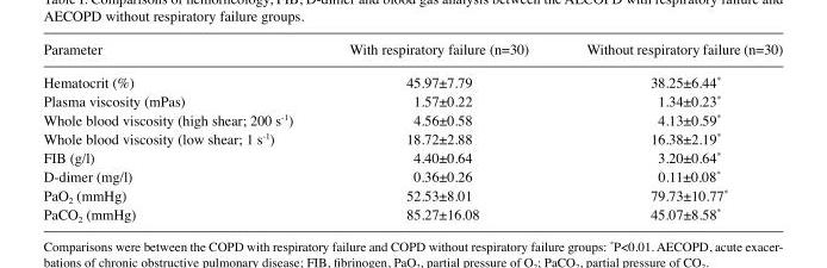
<table><thead><tr><td>Parameter</td><td>With respiratory failure (n=30)</td><td>Without respiratory failure (n=30)</td></tr></thead><tbody><tr><td>Hematocrit (%)</td><td>45.97±7.79</td><td>38.25±6.44*</td></tr><tr><td>Plasma viscosity (mPas)</td><td>1.57±0.22</td><td>1.34±0.23*</td></tr><tr><td>Whole blood viscosity (high shear; 200 s<sup>-1</sup>)</td><td>4.56±0.58</td><td>4.13±0.59*</td></tr><tr><td>Whole blood viscosity (low shear; 1 s<sup>-1</sup>)</td><td>18.72±2.88</td><td>16.38±2.19*</td></tr><tr><td>FIB (g/l)</td><td>4.40±0.64</td><td>3.20±0.64*</td></tr><tr><td>D-dimer (mg/l)</td><td>0.36±0.26</td><td>0.11±0.08*</td></tr><tr><td>PaO<sub>2</sub> (mmHg)</td><td>52.53±8.01</td><td>79.73±10.77*</td></tr><tr><td>PaCO<sub>2</sub> (mmHg)</td><td>85.27±16.08</td><td>45.07±8.58*</td></tr></tbody></table>